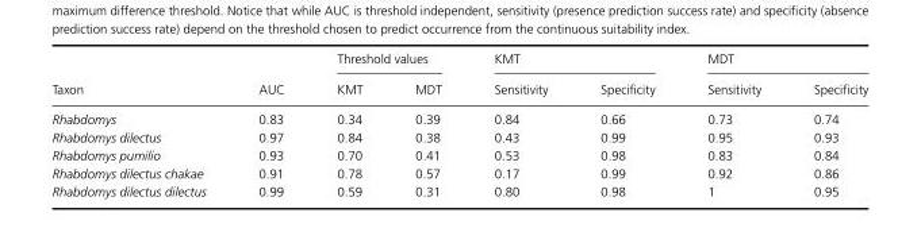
<table><thead><tr><td rowspan="2">Taxon</td><td rowspan="2">AUC</td><td colspan="2">Threshold values</td><td colspan="2">KMT</td><td colspan="2">MDT</td></tr><tr><td>KMT</td><td>MDT</td><td>Sensitivity</td><td>Specificity</td><td>Sensitivity</td><td>Specificity</td></tr></thead><tbody><tr><td>Rhabdomys</td><td>0.83</td><td>0.34</td><td>0.39</td><td>0.84</td><td>0.66</td><td>0.73</td><td>0.74</td></tr><tr><td>Rhabdomys dilectus</td><td>0.97</td><td>0.84</td><td>0.38</td><td>0.43</td><td>0.99</td><td>0.95</td><td>0.93</td></tr><tr><td>Rhabdomys pumilio</td><td>0.93</td><td>0.70</td><td>0.41</td><td>0.53</td><td>0.98</td><td>0.83</td><td>0.84</td></tr><tr><td>Rhabdomys dilectus chakae</td><td>0.91</td><td>0.78</td><td>0.57</td><td>0.17</td><td>0.99</td><td>0.92</td><td>0.86</td></tr><tr><td>Rhabdomys dilectus dilectus</td><td>0.99</td><td>0.59</td><td>0.31</td><td>0.80</td><td>0.98</td><td>1</td><td>0.95</td></tr></tbody></table>